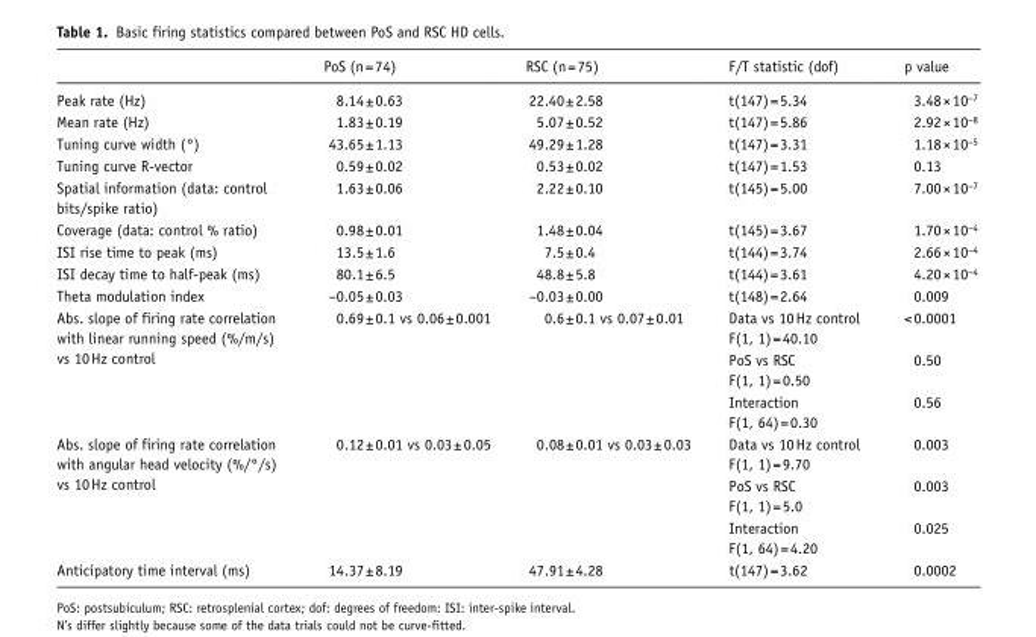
<table><thead><tr><td></td><td>PoS (n = 74)</td><td>RSC (n = 75)</td><td>F/T statistic (dof)</td><td>p value</td></tr></thead><tbody><tr><td>Peak rate (Hz)</td><td>8.14 ± 0.63</td><td>22.40 ± 2.58</td><td>t(147) = 5.34</td><td>3.48 × 10<sup>−7</sup></td></tr><tr><td>Mean rate (Hz)</td><td>1.83 ± 0.19</td><td>5.07 ± 0.52</td><td>t(147) = 5.86</td><td>2.92 × 10<sup>−8</sup></td></tr><tr><td>Tuning curve width (°)</td><td>43.65 ± 1.13</td><td>49.29 ± 1.28</td><td>t(147) = 3.31</td><td>1.18 × 10<sup>−5</sup></td></tr><tr><td>Tuning curve R-vector</td><td>0.59 ± 0.02</td><td>0.53 ± 0.02</td><td>t(147) = 1.53</td><td>0.13</td></tr><tr><td>Spatial information (data: control bits/spike ratio)</td><td>1.63 ± 0.06</td><td>2.22 ± 0.10</td><td>t(145) = 5.00</td><td>7.00 × 10<sup>−7</sup></td></tr><tr><td>Coverage (data: control % ratio)</td><td>0.98 ± 0.01</td><td>1.48 ± 0.04</td><td>t(145) = 3.67</td><td>1.70 × 10<sup>−4</sup></td></tr><tr><td>ISI rise time to peak (ms)</td><td>13.5 ± 1.6</td><td>7.5 ± 0.4</td><td>t(144) = 3.74</td><td>2.66 × 10<sup>−4</sup></td></tr><tr><td>ISI decay time to half-peak (ms)</td><td>80.1 ± 6.5</td><td>48.8 ± 5.8</td><td>t(144) = 3.61</td><td>4.20 × 10<sup>−4</sup></td></tr><tr><td>Theta modulation index</td><td>–0.05 ± 0.03</td><td>–0.03 ± 0.00</td><td>t(148) = 2.64</td><td>0.009</td></tr><tr><td rowspan="3">Abs. slope of firing rate correlation with linear running speed (%/m/s) vs 10 Hz control</td><td rowspan="3">0.69 ± 0.1 vs 0.06 ± 0.001</td><td rowspan="3">0.6 ± 0.1 vs 0.07 ± 0.01</td><td>Data vs 10 Hz control F(1, 1) = 40.10</td><td>&lt; 0.0001</td></tr><tr><td>PoS vs RSC F(1, 1) = 0.50</td><td>0.50</td></tr><tr><td>Interaction F(1, 64) = 0.30</td><td>0.56</td></tr><tr><td rowspan="3">Abs. slope of firing rate correlation with angular head velocity (%/°/s) vs 10 Hz control</td><td rowspan="3">0.12 ± 0.01 vs 0.03 ± 0.05</td><td rowspan="3">0.08 ± 0.01 vs 0.03 ± 0.03</td><td>Data vs 10 Hz control F(1, 1) = 9.70</td><td>0.003</td></tr><tr><td>PoS vs RSC F(1, 1) = 5.0</td><td>0.003</td></tr><tr><td>Interaction F(1, 64) = 4.20</td><td>0.025</td></tr><tr><td>Anticipatory time interval (ms)</td><td>14.37 ± 8.19</td><td>47.91 ± 4.28</td><td>t(147) = 3.62</td><td>0.0002</td></tr></tbody></table>